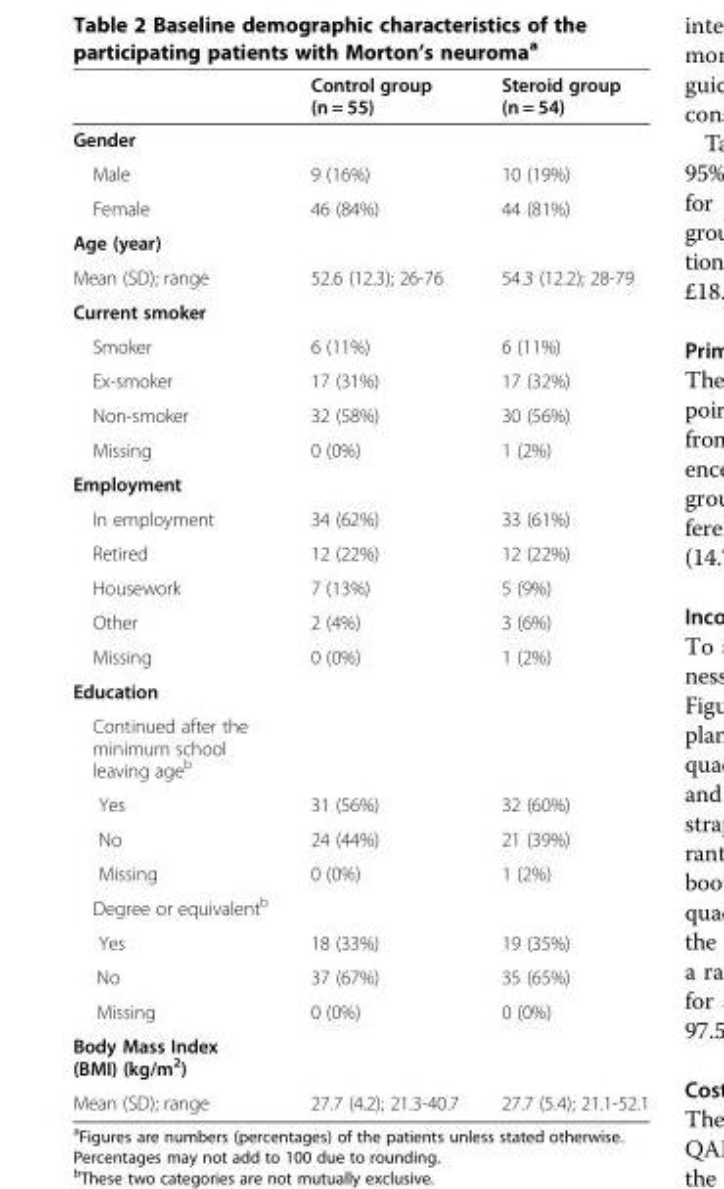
<table><thead><tr><td></td><td>Control group (n = 55)</td><td>Steroid group (n = 54)</td></tr></thead><tbody><tr><td colspan="3">Gender</td></tr><tr><td>Male</td><td>9 (16%)</td><td>10 (19%)</td></tr><tr><td>Female</td><td>46 (84%)</td><td>44 (81%)</td></tr><tr><td colspan="3">Age (year)</td></tr><tr><td>Mean (SD); range</td><td>52.6 (12.3); 26-76</td><td>54.3 (12.2); 28-79</td></tr><tr><td colspan="3">Current smoker</td></tr><tr><td>Smoker</td><td>6 (11%)</td><td>6 (11%)</td></tr><tr><td>Ex-smoker</td><td>17 (31%)</td><td>17 (32%)</td></tr><tr><td>Non-smoker</td><td>32 (58%)</td><td>30 (56%)</td></tr><tr><td>Missing</td><td>0 (0%)</td><td>1 (2%)</td></tr><tr><td colspan="3">Employment</td></tr><tr><td>In employment</td><td>34 (62%)</td><td>33 (61%)</td></tr><tr><td>Retired</td><td>12 (22%)</td><td>12 (22%)</td></tr><tr><td>Housework</td><td>7 (13%)</td><td>5 (9%)</td></tr><tr><td>Other</td><td>2 (4%)</td><td>3 (6%)</td></tr><tr><td>Missing</td><td>0 (0%)</td><td>1 (2%)</td></tr><tr><td colspan="3">Education</td></tr><tr><td colspan="3">Continued after the minimum school leaving age<sup>b</sup></td></tr><tr><td>Yes</td><td>31 (56%)</td><td>32 (60%)</td></tr><tr><td>No</td><td>24 (44%)</td><td>21 (39%)</td></tr><tr><td>Missing</td><td>0 (0%)</td><td>1 (2%)</td></tr><tr><td colspan="3">Degree or equivalent<sup>b</sup></td></tr><tr><td>Yes</td><td>18 (33%)</td><td>19 (35%)</td></tr><tr><td>No</td><td>37 (67%)</td><td>35 (65%)</td></tr><tr><td>Missing</td><td>0 (0%)</td><td>0 (0%)</td></tr><tr><td colspan="3">Body Mass Index (BMI) (kg/m<sup>2</sup>)</td></tr><tr><td>Mean (SD); range</td><td>27.7 (4.2); 21.3-40.7</td><td>27.7 (5.4); 21.1-52.1</td></tr></tbody></table>